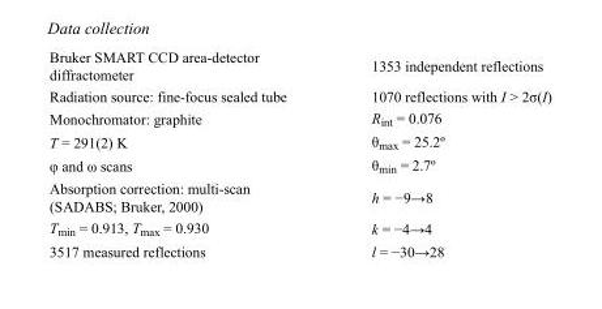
<table><tbody><tr><td>Bruker SMART CCD area-detector diffractometer</td><td>1353 independent reflections</td></tr><tr><td>Radiation source: fine-focus sealed tube</td><td>1070 reflections with I &gt; 2σ(I)</td></tr><tr><td>Monochromator: graphite</td><td>R<sub>int</sub> = 0.076</td></tr><tr><td>T = 291(2) K</td><td>θ<sub>max</sub> = 25.2º</td></tr><tr><td>φ and ω scans</td><td>θ<sub>min</sub> = 2.7º</td></tr><tr><td>Absorption correction: multi-scan (SADABS; Bruker, 2000)</td><td>h = −9→8</td></tr><tr><td>T<sub>min</sub> = 0.913, T<sub>max</sub> = 0.930</td><td>k = −4→4</td></tr><tr><td>3517 measured reflections</td><td>l = −30→28</td></tr></tbody></table>